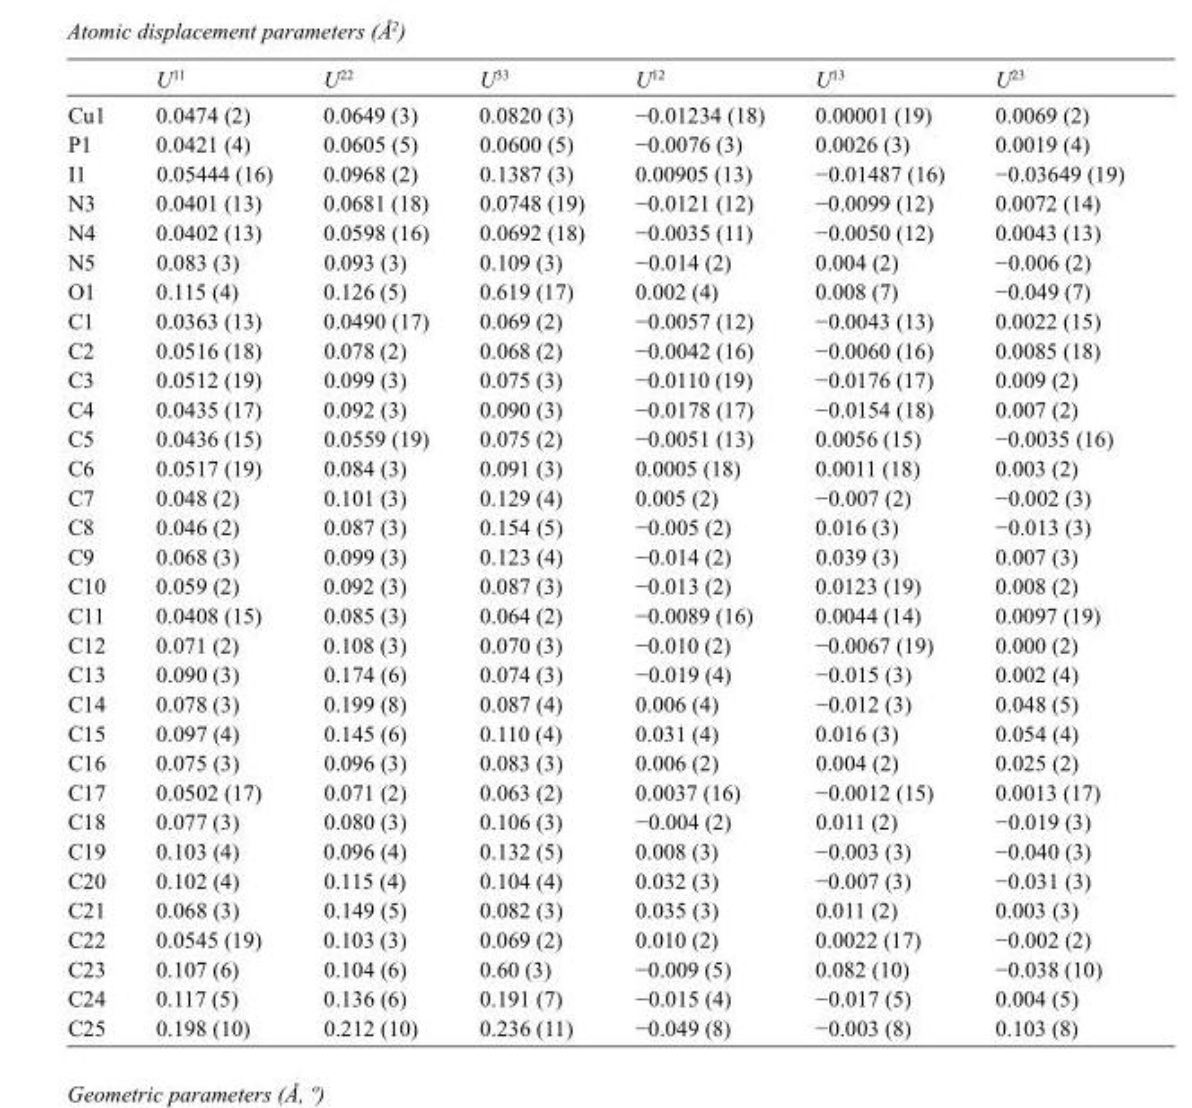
<table><thead><tr><td></td><td>U<sup>11</sup></td><td>U<sup>22</sup></td><td>U<sup>33</sup></td><td>U<sup>12</sup></td><td>U<sup>13</sup></td><td>U<sup>23</sup></td></tr></thead><tbody><tr><td>Cu1</td><td>0.0474 (2)</td><td>0.0649 (3)</td><td>0.0820 (3)</td><td>−0.01234 (18)</td><td>0.00001 (19)</td><td>0.0069 (2)</td></tr><tr><td>P1</td><td>0.0421 (4)</td><td>0.0605 (5)</td><td>0.0600 (5)</td><td>−0.0076 (3)</td><td>0.0026 (3)</td><td>0.0019 (4)</td></tr><tr><td>I1</td><td>0.05444 (16)</td><td>0.0968 (2)</td><td>0.1387 (3)</td><td>0.00905 (13)</td><td>−0.01487 (16)</td><td>−0.03649 (19)</td></tr><tr><td>N3</td><td>0.0401 (13)</td><td>0.0681 (18)</td><td>0.0748 (19)</td><td>−0.0121 (12)</td><td>−0.0099 (12)</td><td>0.0072 (14)</td></tr><tr><td>N4</td><td>0.0402 (13)</td><td>0.0598 (16)</td><td>0.0692 (18)</td><td>−0.0035 (11)</td><td>−0.0050 (12)</td><td>0.0043 (13)</td></tr><tr><td>N5</td><td>0.083 (3)</td><td>0.093 (3)</td><td>0.109 (3)</td><td>−0.014 (2)</td><td>0.004 (2)</td><td>−0.006 (2)</td></tr><tr><td>O1</td><td>0.115 (4)</td><td>0.126 (5)</td><td>0.619 (17)</td><td>0.002 (4)</td><td>0.008 (7)</td><td>−0.049 (7)</td></tr><tr><td>C1</td><td>0.0363 (13)</td><td>0.0490 (17)</td><td>0.069 (2)</td><td>−0.0057 (12)</td><td>−0.0043 (13)</td><td>0.0022 (15)</td></tr><tr><td>C2</td><td>0.0516 (18)</td><td>0.078 (2)</td><td>0.068 (2)</td><td>−0.0042 (16)</td><td>−0.0060 (16)</td><td>0.0085 (18)</td></tr><tr><td>C3</td><td>0.0512 (19)</td><td>0.099 (3)</td><td>0.075 (3)</td><td>−0.0110 (19)</td><td>−0.0176 (17)</td><td>0.009 (2)</td></tr><tr><td>C4</td><td>0.0435 (17)</td><td>0.092 (3)</td><td>0.090 (3)</td><td>−0.0178 (17)</td><td>−0.0154 (18)</td><td>0.007 (2)</td></tr><tr><td>C5</td><td>0.0436 (15)</td><td>0.0559 (19)</td><td>0.075 (2)</td><td>−0.0051 (13)</td><td>0.0056 (15)</td><td>−0.0035 (16)</td></tr><tr><td>C6</td><td>0.0517 (19)</td><td>0.084 (3)</td><td>0.091 (3)</td><td>0.0005 (18)</td><td>0.0011 (18)</td><td>0.003 (2)</td></tr><tr><td>C7</td><td>0.048 (2)</td><td>0.101 (3)</td><td>0.129 (4)</td><td>0.005 (2)</td><td>−0.007 (2)</td><td>−0.002 (3)</td></tr><tr><td>C8</td><td>0.046 (2)</td><td>0.087 (3)</td><td>0.154 (5)</td><td>−0.005 (2)</td><td>0.016 (3)</td><td>−0.013 (3)</td></tr><tr><td>C9</td><td>0.068 (3)</td><td>0.099 (3)</td><td>0.123 (4)</td><td>−0.014 (2)</td><td>0.039 (3)</td><td>0.007 (3)</td></tr><tr><td>C10</td><td>0.059 (2)</td><td>0.092 (3)</td><td>0.087 (3)</td><td>−0.013 (2)</td><td>0.0123 (19)</td><td>0.008 (2)</td></tr><tr><td>C11</td><td>0.0408 (15)</td><td>0.085 (3)</td><td>0.064 (2)</td><td>−0.0089 (16)</td><td>0.0044 (14)</td><td>0.0097 (19)</td></tr><tr><td>C12</td><td>0.071 (2)</td><td>0.108 (3)</td><td>0.070 (3)</td><td>−0.010 (2)</td><td>−0.0067 (19)</td><td>0.000 (2)</td></tr><tr><td>C13</td><td>0.090 (3)</td><td>0.174 (6)</td><td>0.074 (3)</td><td>−0.019 (4)</td><td>−0.015 (3)</td><td>0.002 (4)</td></tr><tr><td>C14</td><td>0.078 (3)</td><td>0.199 (8)</td><td>0.087 (4)</td><td>0.006 (4)</td><td>−0.012 (3)</td><td>0.048 (5)</td></tr><tr><td>C15</td><td>0.097 (4)</td><td>0.145 (6)</td><td>0.110 (4)</td><td>0.031 (4)</td><td>0.016 (3)</td><td>0.054 (4)</td></tr><tr><td>C16</td><td>0.075 (3)</td><td>0.096 (3)</td><td>0.083 (3)</td><td>0.006 (2)</td><td>0.004 (2)</td><td>0.025 (2)</td></tr><tr><td>C17</td><td>0.0502 (17)</td><td>0.071 (2)</td><td>0.063 (2)</td><td>0.0037 (16)</td><td>−0.0012 (15)</td><td>0.0013 (17)</td></tr><tr><td>C18</td><td>0.077 (3)</td><td>0.080 (3)</td><td>0.106 (3)</td><td>−0.004 (2)</td><td>0.011 (2)</td><td>−0.019 (3)</td></tr><tr><td>C19</td><td>0.103 (4)</td><td>0.096 (4)</td><td>0.132 (5)</td><td>0.008 (3)</td><td>−0.003 (3)</td><td>−0.040 (3)</td></tr><tr><td>C20</td><td>0.102 (4)</td><td>0.115 (4)</td><td>0.104 (4)</td><td>0.032 (3)</td><td>−0.007 (3)</td><td>−0.031 (3)</td></tr><tr><td>C21</td><td>0.068 (3)</td><td>0.149 (5)</td><td>0.082 (3)</td><td>0.035 (3)</td><td>0.011 (2)</td><td>0.003 (3)</td></tr><tr><td>C22</td><td>0.0545 (19)</td><td>0.103 (3)</td><td>0.069 (2)</td><td>0.010 (2)</td><td>0.0022 (17)</td><td>−0.002 (2)</td></tr><tr><td>C23</td><td>0.107 (6)</td><td>0.104 (6)</td><td>0.60 (3)</td><td>−0.009 (5)</td><td>0.082 (10)</td><td>−0.038 (10)</td></tr><tr><td>C24</td><td>0.117 (5)</td><td>0.136 (6)</td><td>0.191 (7)</td><td>−0.015 (4)</td><td>−0.017 (5)</td><td>0.004 (5)</td></tr><tr><td>C25</td><td>0.198 (10)</td><td>0.212 (10)</td><td>0.236 (11)</td><td>−0.049 (8)</td><td>−0.003 (8)</td><td>0.103 (8)</td></tr></tbody></table>